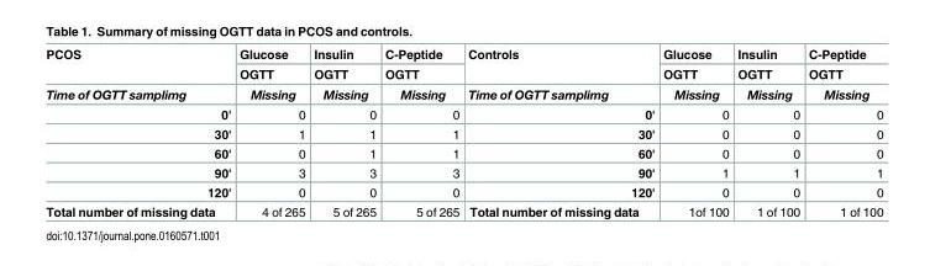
<table><thead><tr><td rowspan="3">PCOS Time of OGTT samplimg</td><td rowspan="3">Glucose OGTT Missing</td><td rowspan="3">Insulin OGTT Missing</td><td rowspan="3">C-Peptide OGTT Missing</td><td rowspan="3">Controls Time of OGTT samplimg</td><td rowspan="3">Glucose OGTT Missing</td><td rowspan="3">Insulin OGTT Missing</td><td rowspan="3">C-Peptide OGTT Missing</td></tr><tr></tr><tr></tr></thead><tbody><tr><td>0&#x27;</td><td>0</td><td>0</td><td>0</td><td>0&#x27;</td><td>0</td><td>0</td><td>0</td></tr><tr><td>30&#x27;</td><td>1</td><td>1</td><td>1</td><td>30&#x27;</td><td>0</td><td>0</td><td>0</td></tr><tr><td>60&#x27;</td><td>0</td><td>1</td><td>1</td><td>60&#x27;</td><td>0</td><td>0</td><td>0</td></tr><tr><td>90&#x27;</td><td>3</td><td>3</td><td>3</td><td>90&#x27;</td><td>1</td><td>1</td><td>1</td></tr><tr><td>120&#x27;</td><td>0</td><td>0</td><td>0</td><td>120&#x27;</td><td>0</td><td>0</td><td>0</td></tr><tr><td>Total number of missing data</td><td>4 of 265</td><td>5 of 265</td><td>5 of 265</td><td>Total number of missing data</td><td>1of 100</td><td>1 of 100</td><td>1 of 100</td></tr></tbody></table>